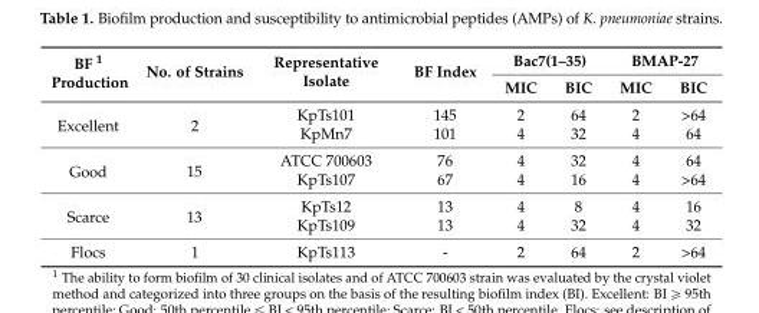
<table><thead><tr><td rowspan="2">BF 1 Production</td><td rowspan="2">No. of Strains</td><td rowspan="2">Representative Isolate</td><td rowspan="2">BF Index</td><td colspan="2">Bac7(1–35)</td><td colspan="2">BMAP-27</td></tr><tr><td>MIC</td><td>BIC</td><td>MIC</td><td>BIC</td></tr></thead><tbody><tr><td rowspan="2">Excellent</td><td rowspan="2">2</td><td>KpTs101</td><td>145</td><td>2</td><td>64</td><td>2</td><td>&gt;64</td></tr><tr><td>KpMn7</td><td>101</td><td>4</td><td>32</td><td>4</td><td>64</td></tr><tr><td rowspan="2">Good</td><td rowspan="2">15</td><td>ATCC 700603</td><td>76</td><td>4</td><td>32</td><td>4</td><td>64</td></tr><tr><td>KpTs107</td><td>67</td><td>4</td><td>16</td><td>4</td><td>&gt;64</td></tr><tr><td rowspan="2">Scarce</td><td rowspan="2">13</td><td>KpTs12</td><td>13</td><td>4</td><td>8</td><td>4</td><td>16</td></tr><tr><td>KpTs109</td><td>13</td><td>4</td><td>32</td><td>4</td><td>32</td></tr><tr><td>Flocs</td><td>1</td><td>KpTs113</td><td>-</td><td>2</td><td>64</td><td>2</td><td>&gt;64</td></tr></tbody></table>